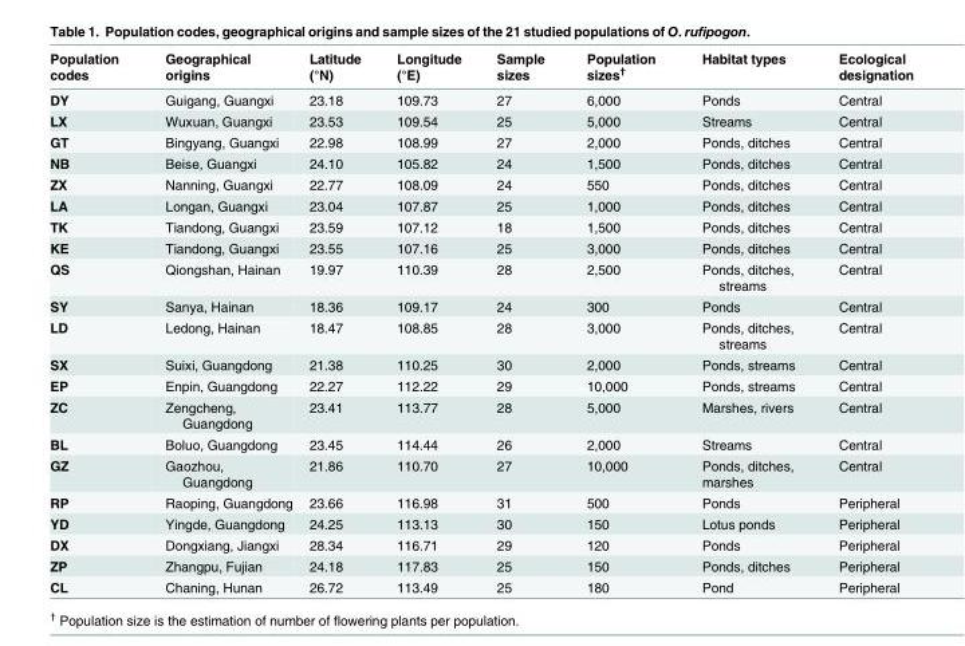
<table><thead><tr><td>Population codes</td><td>Geographical origins</td><td>Latitude (°N)</td><td>Longitude (°E)</td><td>Sample sizes</td><td>Population sizes<sup>†</sup></td><td>Habitat types</td><td>Ecological designation</td></tr></thead><tbody><tr><td>DY</td><td>Guigang, Guangxi</td><td>23.18</td><td>109.73</td><td>27</td><td>6,000</td><td>Ponds</td><td>Central</td></tr><tr><td>LX</td><td>Wuxuan, Guangxi</td><td>23.53</td><td>109.54</td><td>25</td><td>5,000</td><td>Streams</td><td>Central</td></tr><tr><td>GT</td><td>Bingyang, Guangxi</td><td>22.98</td><td>108.99</td><td>27</td><td>2,000</td><td>Ponds, ditches</td><td>Central</td></tr><tr><td>NB</td><td>Beise, Guangxi</td><td>24.10</td><td>105.82</td><td>24</td><td>1,500</td><td>Ponds, ditches</td><td>Central</td></tr><tr><td>ZX</td><td>Nanning, Guangxi</td><td>22.77</td><td>108.09</td><td>24</td><td>550</td><td>Ponds, ditches</td><td>Central</td></tr><tr><td>LA</td><td>Longan, Guangxi</td><td>23.04</td><td>107.87</td><td>25</td><td>1,000</td><td>Ponds, ditches</td><td>Central</td></tr><tr><td>TK</td><td>Tiandong, Guangxi</td><td>23.59</td><td>107.12</td><td>18</td><td>1,500</td><td>Ponds, ditches</td><td>Central</td></tr><tr><td>KE</td><td>Tiandong, Guangxi</td><td>23.55</td><td>107.16</td><td>25</td><td>3,000</td><td>Ponds, ditches</td><td>Central</td></tr><tr><td>QS</td><td>Qiongshan, Hainan</td><td>19.97</td><td>110.39</td><td>28</td><td>2,500</td><td>Ponds, ditches, streams</td><td>Central</td></tr><tr><td>SY</td><td>Sanya, Hainan</td><td>18.36</td><td>109.17</td><td>24</td><td>300</td><td>Ponds</td><td>Central</td></tr><tr><td>LD</td><td>Ledong, Hainan</td><td>18.47</td><td>108.85</td><td>28</td><td>3,000</td><td>Ponds, ditches, streams</td><td>Central</td></tr><tr><td>SX</td><td>Suixi, Guangdong</td><td>21.38</td><td>110.25</td><td>30</td><td>2,000</td><td>Ponds, streams</td><td>Central</td></tr><tr><td>EP</td><td>Enpin, Guangdong</td><td>22.27</td><td>112.22</td><td>29</td><td>10,000</td><td>Ponds, streams</td><td>Central</td></tr><tr><td>ZC</td><td>Zengcheng, Guangdong</td><td>23.41</td><td>113.77</td><td>28</td><td>5,000</td><td>Marshes, rivers</td><td>Central</td></tr><tr><td>BL</td><td>Boluo, Guangdong</td><td>23.45</td><td>114.44</td><td>26</td><td>2,000</td><td>Streams</td><td>Central</td></tr><tr><td>GZ</td><td>Gaozhou, Guangdong</td><td>21.86</td><td>110.70</td><td>27</td><td>10,000</td><td>Ponds, ditches, marshes</td><td>Central</td></tr><tr><td>RP</td><td>Raoping, Guangdong</td><td>23.66</td><td>116.98</td><td>31</td><td>500</td><td>Ponds</td><td>Peripheral</td></tr><tr><td>YD</td><td>Yingde, Guangdong</td><td>24.25</td><td>113.13</td><td>30</td><td>150</td><td>Lotus ponds</td><td>Peripheral</td></tr><tr><td>DX</td><td>Dongxiang, Jiangxi</td><td>28.34</td><td>116.71</td><td>29</td><td>120</td><td>Ponds</td><td>Peripheral</td></tr><tr><td>ZP</td><td>Zhangpu, Fujian</td><td>24.18</td><td>117.83</td><td>25</td><td>150</td><td>Ponds, ditches</td><td>Peripheral</td></tr><tr><td>CL</td><td>Chaning, Hunan</td><td>26.72</td><td>113.49</td><td>25</td><td>180</td><td>Pond</td><td>Peripheral</td></tr></tbody></table>